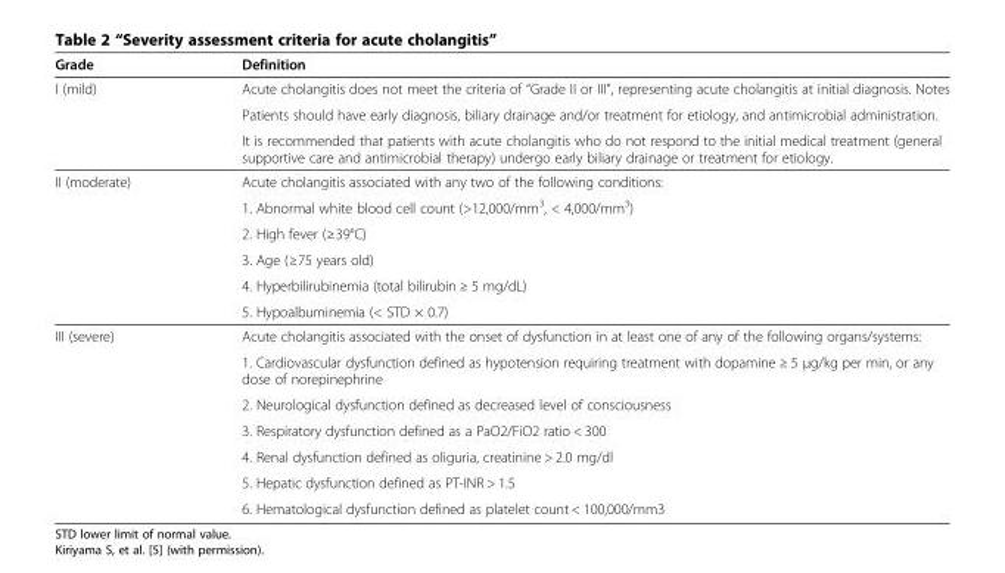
<table><thead><tr><td>Grade</td><td>Definition</td></tr></thead><tbody><tr><td rowspan="3">I (mild)</td><td>Acute cholangitis does not meet the criteria of “Grade II or III”, representing acute cholangitis at initial diagnosis. Notes</td></tr><tr><td>Patients should have early diagnosis, biliary drainage and/or treatment for etiology, and antimicrobial administration.</td></tr><tr><td>It is recommended that patients with acute cholangitis who do not respond to the initial medical treatment (general supportive care and antimicrobial therapy) undergo early biliary drainage or treatment for etiology.</td></tr><tr><td rowspan="6">II (moderate)</td><td>Acute cholangitis associated with any two of the following conditions:</td></tr><tr><td>1. Abnormal white blood cell count (&gt;12,000/mm<sup>3</sup>, &lt; 4,000/mm<sup>3</sup>)</td></tr><tr><td>2. High fever (≥39°C)</td></tr><tr><td>3. Age (≥75 years old)</td></tr><tr><td>4. Hyperbilirubinemia (total bilirubin ≥ 5 mg/dL)</td></tr><tr><td>5. Hypoalbuminemia (&lt; STD × 0.7)</td></tr><tr><td rowspan="7">III (severe)</td><td>Acute cholangitis associated with the onset of dysfunction in at least one of any of the following organs/systems:</td></tr><tr><td>1. Cardiovascular dysfunction defined as hypotension requiring treatment with dopamine ≥ 5 μg/kg per min, or any dose of norepinephrine</td></tr><tr><td>2. Neurological dysfunction defined as decreased level of consciousness</td></tr><tr><td>3. Respiratory dysfunction defined as a PaO2/FiO2 ratio &lt; 300</td></tr><tr><td>4. Renal dysfunction defined as oliguria, creatinine &gt; 2.0 mg/dl</td></tr><tr><td>5. Hepatic dysfunction defined as PT-INR &gt; 1.5</td></tr><tr><td>6. Hematological dysfunction defined as platelet count &lt; 100,000/mm3</td></tr></tbody></table>